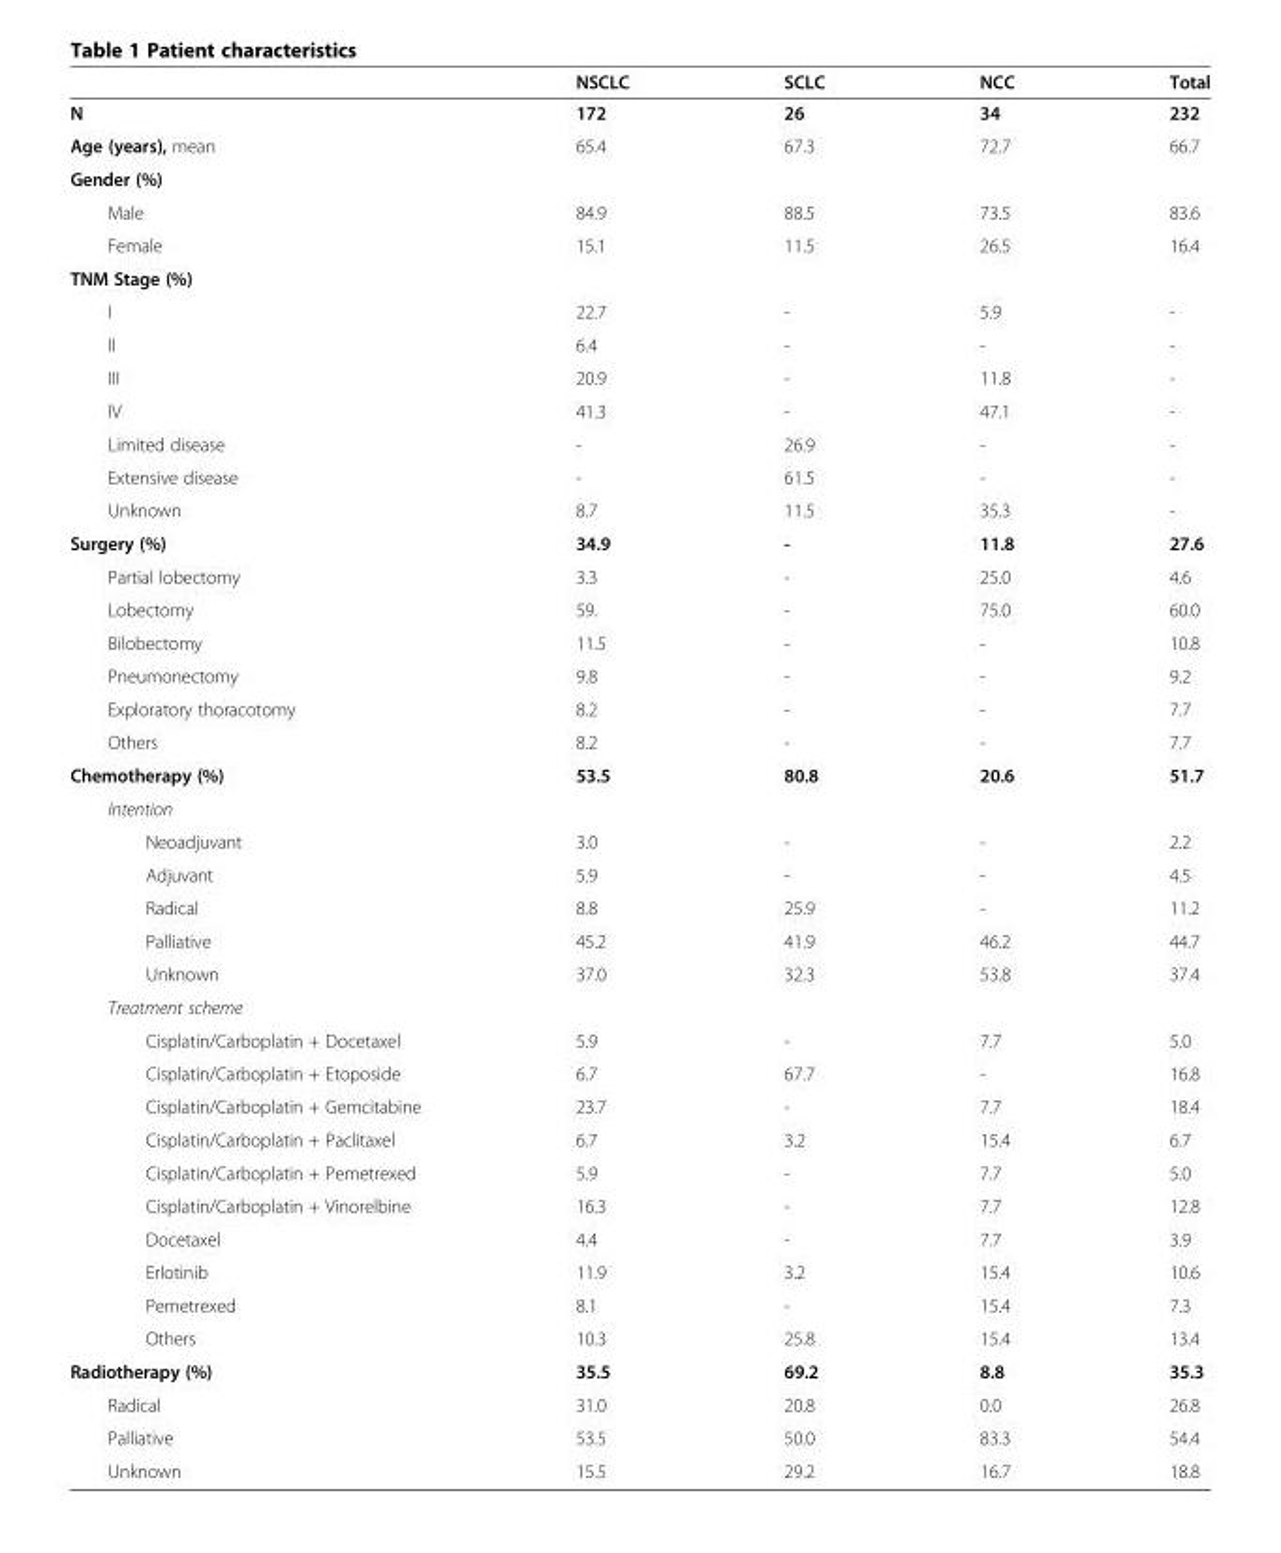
<table><thead><tr><td></td><td>NSCLC</td><td>SCLC</td><td>NCC</td><td>Total</td></tr></thead><tbody><tr><td>N</td><td>172</td><td>26</td><td>34</td><td>232</td></tr><tr><td>Age (years), mean</td><td>65.4</td><td>67.3</td><td>72.7</td><td>66.7</td></tr><tr><td colspan="5">Gender (%)</td></tr><tr><td>Male</td><td>84.9</td><td>88.5</td><td>73.5</td><td>83.6</td></tr><tr><td>Female</td><td>15.1</td><td>11.5</td><td>26.5</td><td>16.4</td></tr><tr><td colspan="5">TNM Stage (%)</td></tr><tr><td>I</td><td>22.7</td><td>-</td><td>5.9</td><td>-</td></tr><tr><td>II</td><td>6.4</td><td>-</td><td>-</td><td>-</td></tr><tr><td>III</td><td>20.9</td><td>-</td><td>11.8</td><td>-</td></tr><tr><td>IV</td><td>41.3</td><td>-</td><td>47.1</td><td>-</td></tr><tr><td>Limited disease</td><td>-</td><td>26.9</td><td>-</td><td>-</td></tr><tr><td>Extensive disease</td><td>-</td><td>61.5</td><td>-</td><td>-</td></tr><tr><td>Unknown</td><td>8.7</td><td>11.5</td><td>35.3</td><td>-</td></tr><tr><td>Surgery (%)</td><td>34.9</td><td>-</td><td>11.8</td><td>27.6</td></tr><tr><td>Partial lobectomy</td><td>3.3</td><td>-</td><td>25.0</td><td>4.6</td></tr><tr><td>Lobectomy</td><td>59.</td><td>-</td><td>75.0</td><td>60.0</td></tr><tr><td>Bilobectomy</td><td>11.5</td><td>-</td><td>-</td><td>10.8</td></tr><tr><td>Pneumonectomy</td><td>9.8</td><td>-</td><td>-</td><td>9.2</td></tr><tr><td>Exploratory thoracotomy</td><td>8.2</td><td>-</td><td>-</td><td>7.7</td></tr><tr><td>Others</td><td>8.2</td><td>-</td><td>-</td><td>7.7</td></tr><tr><td>Chemotherapy (%)</td><td>53.5</td><td>80.8</td><td>20.6</td><td>51.7</td></tr><tr><td colspan="5">Intention</td></tr><tr><td>Neoadjuvant</td><td>3.0</td><td>-</td><td>-</td><td>2.2</td></tr><tr><td>Adjuvant</td><td>5.9</td><td>-</td><td>-</td><td>4.5</td></tr><tr><td>Radical</td><td>8.8</td><td>25.9</td><td>-</td><td>11.2</td></tr><tr><td>Palliative</td><td>45.2</td><td>41.9</td><td>46.2</td><td>44.7</td></tr><tr><td>Unknown</td><td>37.0</td><td>32.3</td><td>53.8</td><td>37.4</td></tr><tr><td colspan="5">Treatment scheme</td></tr><tr><td>Cisplatin/Carboplatin + Docetaxel</td><td>5.9</td><td>-</td><td>7.7</td><td>5.0</td></tr><tr><td>Cisplatin/Carboplatin + Etoposide</td><td>6.7</td><td>67.7</td><td>-</td><td>16.8</td></tr><tr><td>Cisplatin/Carboplatin + Gemcitabine</td><td>23.7</td><td>-</td><td>7.7</td><td>18.4</td></tr><tr><td>Cisplatin/Carboplatin + Paclitaxel</td><td>6.7</td><td>3.2</td><td>15.4</td><td>6.7</td></tr><tr><td>Cisplatin/Carboplatin + Pemetrexed</td><td>5.9</td><td>-</td><td>7.7</td><td>5.0</td></tr><tr><td>Cisplatin/Carboplatin + Vinorelbine</td><td>16.3</td><td>-</td><td>7.7</td><td>12.8</td></tr><tr><td>Docetaxel</td><td>4.4</td><td>-</td><td>7.7</td><td>3.9</td></tr><tr><td>Erlotinib</td><td>11.9</td><td>3.2</td><td>15.4</td><td>10.6</td></tr><tr><td>Pemetrexed</td><td>8.1</td><td>-</td><td>15.4</td><td>7.3</td></tr><tr><td>Others</td><td>10.3</td><td>25.8</td><td>15.4</td><td>13.4</td></tr><tr><td>Radiotherapy (%)</td><td>35.5</td><td>69.2</td><td>8.8</td><td>35.3</td></tr><tr><td>Radical</td><td>31.0</td><td>20.8</td><td>0.0</td><td>26.8</td></tr><tr><td>Palliative</td><td>53.5</td><td>50.0</td><td>83.3</td><td>54.4</td></tr><tr><td>Unknown</td><td>15.5</td><td>29.2</td><td>16.7</td><td>18.8</td></tr></tbody></table>